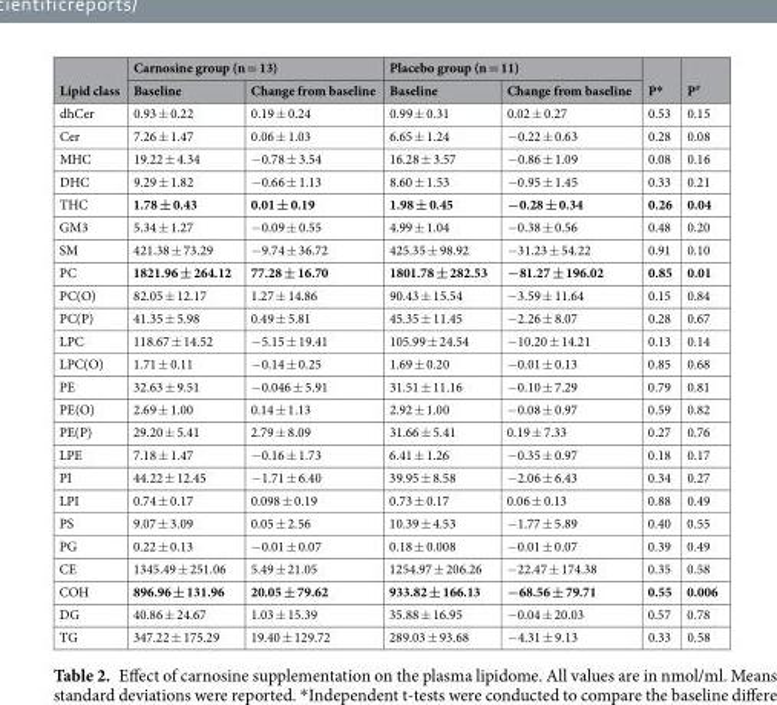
<table><thead><tr><td rowspan="2">Lipid class</td><td colspan="2">Carnosine group (n = 13)</td><td colspan="2">Placebo group (n = 11)</td><td rowspan="2">P*</td><td rowspan="2">P<sup>#</sup></td></tr><tr><td>Baseline</td><td>Change from baseline</td><td>Baseline</td><td>Change from baseline</td></tr></thead><tbody><tr><td>dhCer</td><td>0.93 ± 0.22</td><td>0.19 ± 0.24</td><td>0.99 ± 0.31</td><td>0.02 ± 0.27</td><td>0.53</td><td>0.15</td></tr><tr><td>Cer</td><td>7.26 ± 1.47</td><td>0.06 ± 1.03</td><td>6.65 ± 1.24</td><td>−0.22 ± 0.63</td><td>0.28</td><td>0.08</td></tr><tr><td>MHC</td><td>19.22 ± 4.34</td><td>−0.78 ± 3.54</td><td>16.28 ± 3.57</td><td>−0.86 ± 1.09</td><td>0.08</td><td>0.16</td></tr><tr><td>DHC</td><td>9.29 ± 1.82</td><td>−0.66 ± 1.13</td><td>8.60 ± 1.53</td><td>−0.95 ± 1.45</td><td>0.33</td><td>0.21</td></tr><tr><td>THC</td><td>1.78 ± 0.43</td><td>0.01 ± 0.19</td><td>1.98 ± 0.45</td><td>−0.28 ± 0.34</td><td>0.26</td><td>0.04</td></tr><tr><td>GM3</td><td>5.34 ± 1.27</td><td>−0.09 ± 0.55</td><td>4.99 ± 1.04</td><td>−0.38 ± 0.56</td><td>0.48</td><td>0.20</td></tr><tr><td>SM</td><td>421.38 ± 73.29</td><td>−9.74 ± 36.72</td><td>425.35 ± 98.92</td><td>−31.23 ± 54.22</td><td>0.91</td><td>0.10</td></tr><tr><td>PC</td><td>1821.96 ± 264.12</td><td>77.28 ± 16.70</td><td>1801.78 ± 282.53</td><td>−81.27 ± 196.02</td><td>0.85</td><td>0.01</td></tr><tr><td>PC(O)</td><td>82.05 ± 12.17</td><td>1.27 ± 14.86</td><td>90.43 ± 15.54</td><td>−3.59 ± 11.64</td><td>0.15</td><td>0.84</td></tr><tr><td>PC(P)</td><td>41.35 ± 5.98</td><td>0.49 ± 5.81</td><td>45.35 ± 11.45</td><td>−2.26 ± 8.07</td><td>0.28</td><td>0.67</td></tr><tr><td>LPC</td><td>118.67 ± 14.52</td><td>−5.15 ± 19.41</td><td>105.99 ± 24.54</td><td>−10.20 ± 14.21</td><td>0.13</td><td>0.14</td></tr><tr><td>LPC(O)</td><td>1.71 ± 0.11</td><td>−0.14 ± 0.25</td><td>1.69 ± 0.20</td><td>−0.01 ± 0.13</td><td>0.85</td><td>0.68</td></tr><tr><td>PE</td><td>32.63 ± 9.51</td><td>−0.046 ± 5.91</td><td>31.51 ± 11.16</td><td>−0.10 ± 7.29</td><td>0.79</td><td>0.81</td></tr><tr><td>PE(O)</td><td>2.69 ± 1.00</td><td>0.14 ± 1.13</td><td>2.92 ± 1.00</td><td>−0.08 ± 0.97</td><td>0.59</td><td>0.82</td></tr><tr><td>PE(P)</td><td>29.20 ± 5.41</td><td>2.79 ± 8.09</td><td>31.66 ± 5.41</td><td>0.19 ± 7.33</td><td>0.27</td><td>0.76</td></tr><tr><td>LPE</td><td>7.18 ± 1.47</td><td>−0.16 ± 1.73</td><td>6.41 ± 1.26</td><td>−0.35 ± 0.97</td><td>0.18</td><td>0.17</td></tr><tr><td>PI</td><td>44.22 ± 12.45</td><td>−1.71 ± 6.40</td><td>39.95 ± 8.58</td><td>−2.06 ± 6.43</td><td>0.34</td><td>0.27</td></tr><tr><td>LPI</td><td>0.74 ± 0.17</td><td>0.098 ± 0.19</td><td>0.73 ± 0.17</td><td>0.06 ± 0.13</td><td>0.88</td><td>0.49</td></tr><tr><td>PS</td><td>9.07 ± 3.09</td><td>0.05 ± 2.56</td><td>10.39 ± 4.53</td><td>−1.77 ± 5.89</td><td>0.40</td><td>0.55</td></tr><tr><td>PG</td><td>0.22 ± 0.13</td><td>−0.01 ± 0.07</td><td>0.18 ± 0.008</td><td>−0.01 ± 0.07</td><td>0.39</td><td>0.49</td></tr><tr><td>CE</td><td>1345.49 ± 251.06</td><td>5.49 ± 21.05</td><td>1254.97 ± 206.26</td><td>−22.47 ± 174.38</td><td>0.35</td><td>0.58</td></tr><tr><td>COH</td><td>896.96 ± 131.96</td><td>20.05 ± 79.62</td><td>933.82 ± 166.13</td><td>−68.56 ± 79.71</td><td>0.55</td><td>0.006</td></tr><tr><td>DG</td><td>40.86 ± 24.67</td><td>1.03 ± 15.39</td><td>35.88 ± 16.95</td><td>−0.04 ± 20.03</td><td>0.57</td><td>0.78</td></tr><tr><td>TG</td><td>347.22 ± 175.29</td><td>19.40 ± 129.72</td><td>289.03 ± 93.68</td><td>−4.31 ± 9.13</td><td>0.33</td><td>0.58</td></tr></tbody></table>